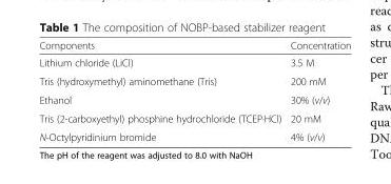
<table><thead><tr><td>Components</td><td>Concentration</td></tr></thead><tbody><tr><td>Lithium chloride (LiCl)</td><td>3.5 M</td></tr><tr><td>Tris (hydroxymethyl) aminomethane (Tris)</td><td>200 mM</td></tr><tr><td>Ethanol</td><td>30% (v/v)</td></tr><tr><td>Tris (2-carboxyethyl) phosphine hydrochloride (TCEP·HCl)</td><td>20 mM</td></tr><tr><td>N-Octylpyridinium bromide</td><td>4% (v/v)</td></tr></tbody></table>